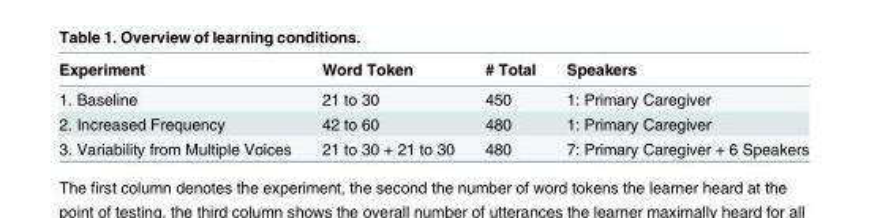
<table><thead><tr><td>Experiment</td><td>Word Token</td><td># Total</td><td>Speakers</td></tr></thead><tbody><tr><td>1. Baseline</td><td>21 to 30</td><td>450</td><td>1: Primary Caregiver</td></tr><tr><td>2. Increased Frequency</td><td>42 to 60</td><td>480</td><td>1: Primary Caregiver</td></tr><tr><td>3. Variability from Multiple Voices</td><td>21 to 30 + 21 to 30</td><td>480</td><td>7: Primary Caregiver + 6 Speakers</td></tr></tbody></table>